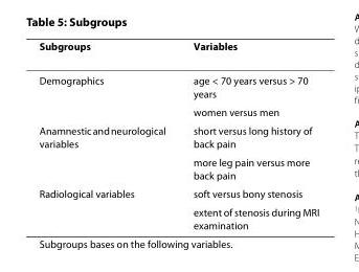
<table><thead><tr><td>Subgroups</td><td>Variables</td></tr></thead><tbody><tr><td rowspan="2">Demographics</td><td>age &lt; 70 years versus &gt; 70 years</td></tr><tr><td>women versus men</td></tr><tr><td rowspan="2">Anamnestic and neurological variables</td><td>short versus long history of back pain</td></tr><tr><td>more leg pain versus more back pain</td></tr><tr><td rowspan="2">Radiological variables</td><td>soft versus bony stenosis</td></tr><tr><td>extent of stenosis during MRI examination</td></tr></tbody></table>